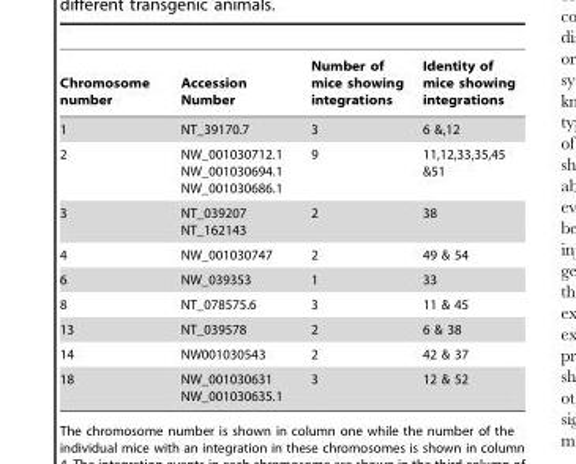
<table><thead><tr><td>Chromosome number</td><td>Accession Number</td><td>Number of mice showing integrations</td><td>Identity of mice showing integrations</td></tr></thead><tbody><tr><td>1</td><td>NT_39170.7</td><td>3</td><td>6 &amp;,12</td></tr><tr><td>2</td><td>NW_001030712.1 NW_001030694.1 NW_001030686.1</td><td>9</td><td>11,12,33,35,45 &amp;51</td></tr><tr><td>3</td><td>NT_039207 NT_162143</td><td>2</td><td>38</td></tr><tr><td>4</td><td>NW_001030747</td><td>2</td><td>49 &amp; 54</td></tr><tr><td>6</td><td>NW_039353</td><td>1</td><td>33</td></tr><tr><td>8</td><td>NT_078575.6</td><td>3</td><td>11 &amp; 45</td></tr><tr><td>13</td><td>NT_039578</td><td>2</td><td>6 &amp; 38</td></tr><tr><td>14</td><td>NW001030543</td><td>2</td><td>42 &amp; 37</td></tr><tr><td>18</td><td>NW_001030631 NW_001030635.1</td><td>3</td><td>12 &amp; 52</td></tr></tbody></table>